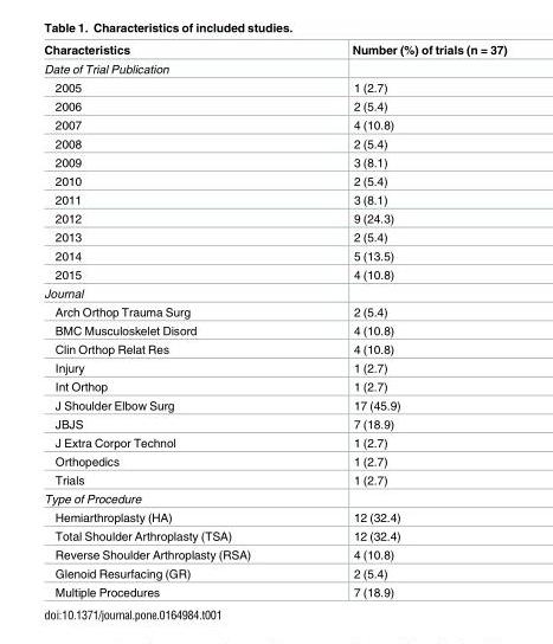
<table><thead><tr><td>Characteristics</td><td>Number (%) of trials (n = 37)</td></tr></thead><tbody><tr><td colspan="2">Date of Trial Publication</td></tr><tr><td>2005</td><td>1 (2.7)</td></tr><tr><td>2006</td><td>2 (5.4)</td></tr><tr><td>2007</td><td>4 (10.8)</td></tr><tr><td>2008</td><td>2 (5.4)</td></tr><tr><td>2009</td><td>3 (8.1)</td></tr><tr><td>2010</td><td>2 (5.4)</td></tr><tr><td>2011</td><td>3 (8.1)</td></tr><tr><td>2012</td><td>9 (24.3)</td></tr><tr><td>2013</td><td>2 (5.4)</td></tr><tr><td>2014</td><td>5 (13.5)</td></tr><tr><td>2015</td><td>4 (10.8)</td></tr><tr><td colspan="2">Journal</td></tr><tr><td>Arch Orthop Trauma Surg</td><td>2 (5.4)</td></tr><tr><td>BMC Musculoskelet Disord</td><td>4 (10.8)</td></tr><tr><td>Clin Orthop Relat Res</td><td>4 (10.8)</td></tr><tr><td>Injury</td><td>1 (2.7)</td></tr><tr><td>Int Orthop</td><td>1 (2.7)</td></tr><tr><td>J Shoulder Elbow Surg</td><td>17 (45.9)</td></tr><tr><td>JBJS</td><td>7 (18.9)</td></tr><tr><td>J Extra Corpor Technol</td><td>1 (2.7)</td></tr><tr><td>Orthopedics</td><td>1 (2.7)</td></tr><tr><td>Trials</td><td>1 (2.7)</td></tr><tr><td colspan="2">Type of Procedure</td></tr><tr><td>Hemiarthroplasty (HA)</td><td>12 (32.4)</td></tr><tr><td>Total Shoulder Arthroplasty (TSA)</td><td>12 (32.4)</td></tr><tr><td>Reverse Shoulder Arthroplasty (RSA)</td><td>4 (10.8)</td></tr><tr><td>Glenoid Resurfacing (GR)</td><td>2 (5.4)</td></tr><tr><td>Multiple Procedures</td><td>7 (18.9)</td></tr></tbody></table>